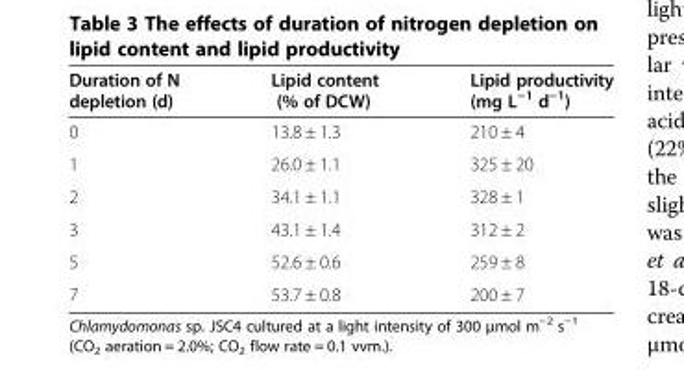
<table><thead><tr><td>Duration of N depletion (d)</td><td>Lipid content (% of DCW)</td><td>Lipid productivity (mg L<sup>−1</sup> d<sup>−1</sup>)</td></tr></thead><tbody><tr><td>0</td><td>13.8 ± 1.3</td><td>210 ± 4</td></tr><tr><td>1</td><td>26.0 ± 1.1</td><td>325 ± 20</td></tr><tr><td>2</td><td>34.1 ± 1.1</td><td>328 ± 1</td></tr><tr><td>3</td><td>43.1 ± 1.4</td><td>312 ± 2</td></tr><tr><td>5</td><td>52.6 ± 0.6</td><td>259 ± 8</td></tr><tr><td>7</td><td>53.7 ± 0.8</td><td>200 ± 7</td></tr></tbody></table>